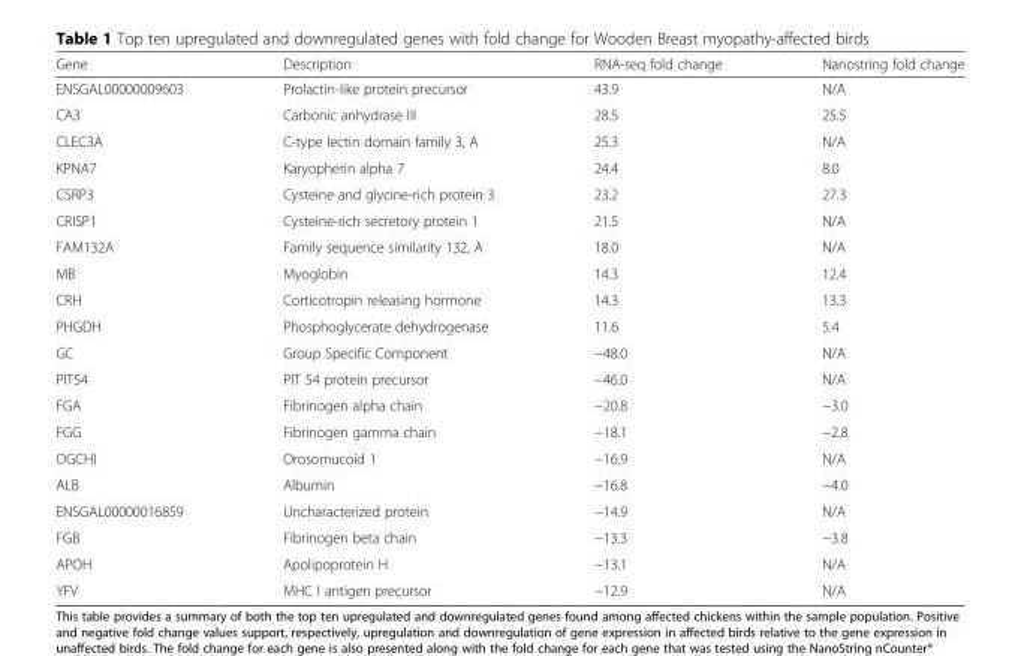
<table><thead><tr><td>Gene</td><td>Description</td><td>RNA-seq fold change</td><td>Nanostring fold change</td></tr></thead><tbody><tr><td>ENSGAL00000009603</td><td>Prolactin-like protein precursor</td><td>43.9</td><td>N/A</td></tr><tr><td>CA3</td><td>Carbonic anhydrase III</td><td>28.5</td><td>25.5</td></tr><tr><td>CLEC3A</td><td>C-type lectin domain family 3, A</td><td>25.3</td><td>N/A</td></tr><tr><td>KPNA7</td><td>Karyopherin alpha 7</td><td>24.4</td><td>8.0</td></tr><tr><td>CSRP3</td><td>Cysteine and glycine-rich protein 3</td><td>23.2</td><td>27.3</td></tr><tr><td>CRISP1</td><td>Cysteine-rich secretory protein 1</td><td>21.5</td><td>N/A</td></tr><tr><td>FAM132A</td><td>Family sequence similarity 132, A</td><td>18.0</td><td>N/A</td></tr><tr><td>MB</td><td>Myoglobin</td><td>14.3</td><td>12.4</td></tr><tr><td>CRH</td><td>Corticotropin releasing hormone</td><td>14.3</td><td>13.3</td></tr><tr><td>PHGDH</td><td>Phosphoglycerate dehydrogenase</td><td>11.6</td><td>5.4</td></tr><tr><td>GC</td><td>Group Specific Component</td><td>−48.0</td><td>N/A</td></tr><tr><td>PIT54</td><td>PIT 54 protein precursor</td><td>−46.0</td><td>N/A</td></tr><tr><td>FGA</td><td>Fibrinogen alpha chain</td><td>−20.8</td><td>−3.0</td></tr><tr><td>FGG</td><td>Fibrinogen gamma chain</td><td>−18.1</td><td>−2.8</td></tr><tr><td>OGCHI</td><td>Orosomucoid 1</td><td>−16.9</td><td>N/A</td></tr><tr><td>ALB</td><td>Albumin</td><td>−16.8</td><td>−4.0</td></tr><tr><td>ENSGAL00000016859</td><td>Uncharacterized protein</td><td>−14.9</td><td>N/A</td></tr><tr><td>FGB</td><td>Fibrinogen beta chain</td><td>−13.3</td><td>−3.8</td></tr><tr><td>APOH</td><td>Apolipoprotein H</td><td>−13.1</td><td>N/A</td></tr><tr><td>YFV</td><td>MHC I antigen precursor</td><td>−12.9</td><td>N/A</td></tr></tbody></table>